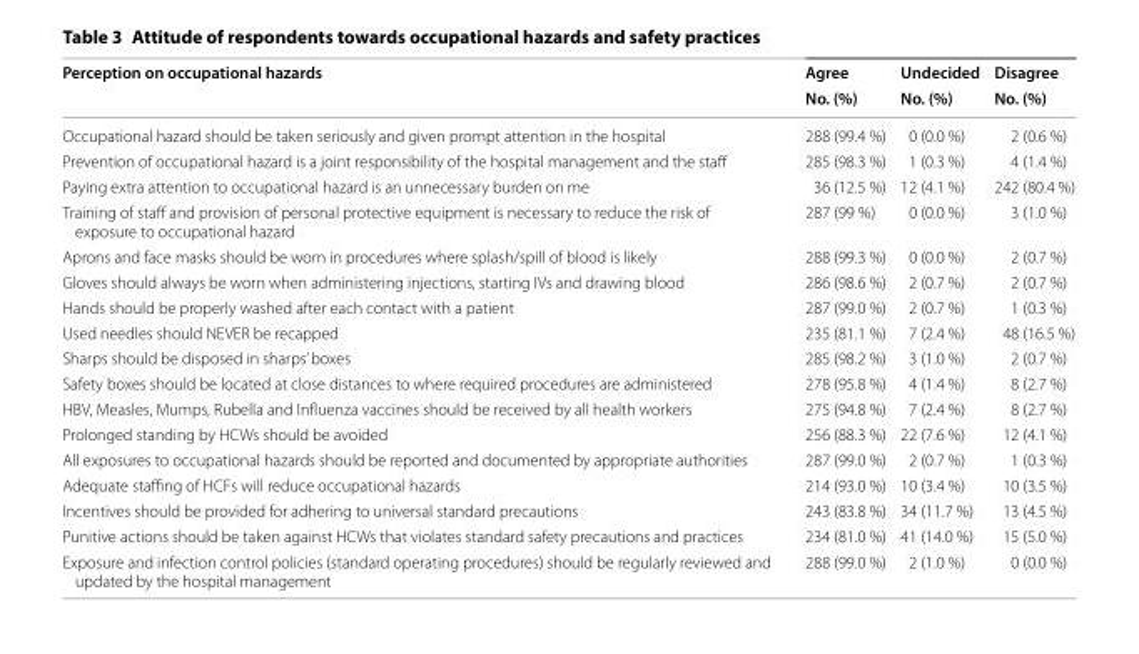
<table><thead><tr><td rowspan="2">Perception on occupational hazards</td><td rowspan="2">Agree No. (%)</td><td rowspan="2">Undecided No. (%)</td><td rowspan="2">Disagree No. (%)</td></tr><tr></tr></thead><tbody><tr><td>Occupational hazard should be taken seriously and given prompt attention in the hospital</td><td>288 (99.4 %)</td><td>0 (0.0 %)</td><td>2 (0.6 %)</td></tr><tr><td>Prevention of occupational hazard is a joint responsibility of the hospital management and the staff</td><td>285 (98.3 %)</td><td>1 (0.3 %)</td><td>4 (1.4 %)</td></tr><tr><td>Paying extra attention to occupational hazard is an unnecessary burden on me</td><td>36 (12.5 %)</td><td>12 (4.1 %)</td><td>242 (80.4 %)</td></tr><tr><td>Training of staff and provision of personal protective equipment is necessary to reduce the risk of exposure to occupational hazard</td><td>287 (99 %)</td><td>0 (0.0 %)</td><td>3 (1.0 %)</td></tr><tr><td>Aprons and face masks should be worn in procedures where splash/spill of blood is likely</td><td>288 (99.3 %)</td><td>0 (0.0 %)</td><td>2 (0.7 %)</td></tr><tr><td>Gloves should always be worn when administering injections, starting IVs and drawing blood</td><td>286 (98.6 %)</td><td>2 (0.7 %)</td><td>2 (0.7 %)</td></tr><tr><td>Hands should be properly washed after each contact with a patient</td><td>287 (99.0 %)</td><td>2 (0.7 %)</td><td>1 (0.3 %)</td></tr><tr><td>Used needles should NEVER be recapped</td><td>235 (81.1 %)</td><td>7 (2.4 %)</td><td>48 (16.5 %)</td></tr><tr><td>Sharps should be disposed in sharps’ boxes</td><td>285 (98.2 %)</td><td>3 (1.0 %)</td><td>2 (0.7 %)</td></tr><tr><td>Safety boxes should be located at close distances to where required procedures are administered</td><td>278 (95.8 %)</td><td>4 (1.4 %)</td><td>8 (2.7 %)</td></tr><tr><td>HBV, Measles, Mumps, Rubella and Influenza vaccines should be received by all health workers</td><td>275 (94.8 %)</td><td>7 (2.4 %)</td><td>8 (2.7 %)</td></tr><tr><td>Prolonged standing by HCWs should be avoided</td><td>256 (88.3 %)</td><td>22 (7.6 %)</td><td>12 (4.1 %)</td></tr><tr><td>All exposures to occupational hazards should be reported and documented by appropriate authorities</td><td>287 (99.0 %)</td><td>2 (0.7 %)</td><td>1 (0.3 %)</td></tr><tr><td>Adequate staffing of HCFs will reduce occupational hazards</td><td>214 (93.0 %)</td><td>10 (3.4 %)</td><td>10 (3.5 %)</td></tr><tr><td>Incentives should be provided for adhering to universal standard precautions</td><td>243 (83.8 %)</td><td>34 (11.7 %)</td><td>13 (4.5 %)</td></tr><tr><td>Punitive actions should be taken against HCWs that violates standard safety precautions and practices</td><td>234 (81.0 %)</td><td>41 (14.0 %)</td><td>15 (5.0 %)</td></tr><tr><td>Exposure and infection control policies (standard operating procedures) should be regularly reviewed and updated by the hospital management</td><td>288 (99.0 %)</td><td>2 (1.0 %)</td><td>0 (0.0 %)</td></tr></tbody></table>